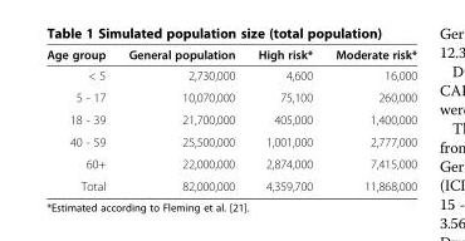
<table><thead><tr><td>Age group</td><td>General population</td><td>High risk*</td><td>Moderate risk*</td></tr></thead><tbody><tr><td>&lt; 5</td><td>2,730,000</td><td>4,600</td><td>16,000</td></tr><tr><td>5 - 17</td><td>10,070,000</td><td>75,100</td><td>260,000</td></tr><tr><td>18 - 39</td><td>21,700,000</td><td>405,000</td><td>1,400,000</td></tr><tr><td>40 - 59</td><td>25,500,000</td><td>1,001,000</td><td>2,777,000</td></tr><tr><td>60+</td><td>22,000,000</td><td>2,874,000</td><td>7,415,000</td></tr><tr><td>Total</td><td>82,000,000</td><td>4,359,700</td><td>11,868,000</td></tr></tbody></table>